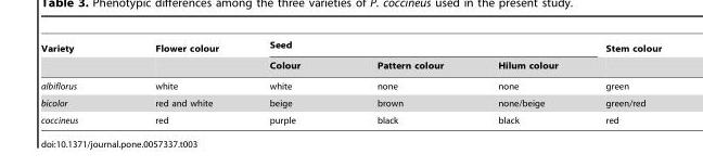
<table><thead><tr><td rowspan="2">Variety</td><td rowspan="2">Flower colour</td><td colspan="3">Seed</td><td rowspan="2">Stem colour</td></tr><tr><td>Colour</td><td>Pattern colour</td><td>Hilum colour</td></tr></thead><tbody><tr><td>albiflorus</td><td>white</td><td>white</td><td>none</td><td>none</td><td>green</td></tr><tr><td>bicolor</td><td>red and white</td><td>beige</td><td>brown</td><td>none/beige</td><td>green/red</td></tr><tr><td>coccineus</td><td>red</td><td>purple</td><td>black</td><td>black</td><td>red</td></tr></tbody></table>